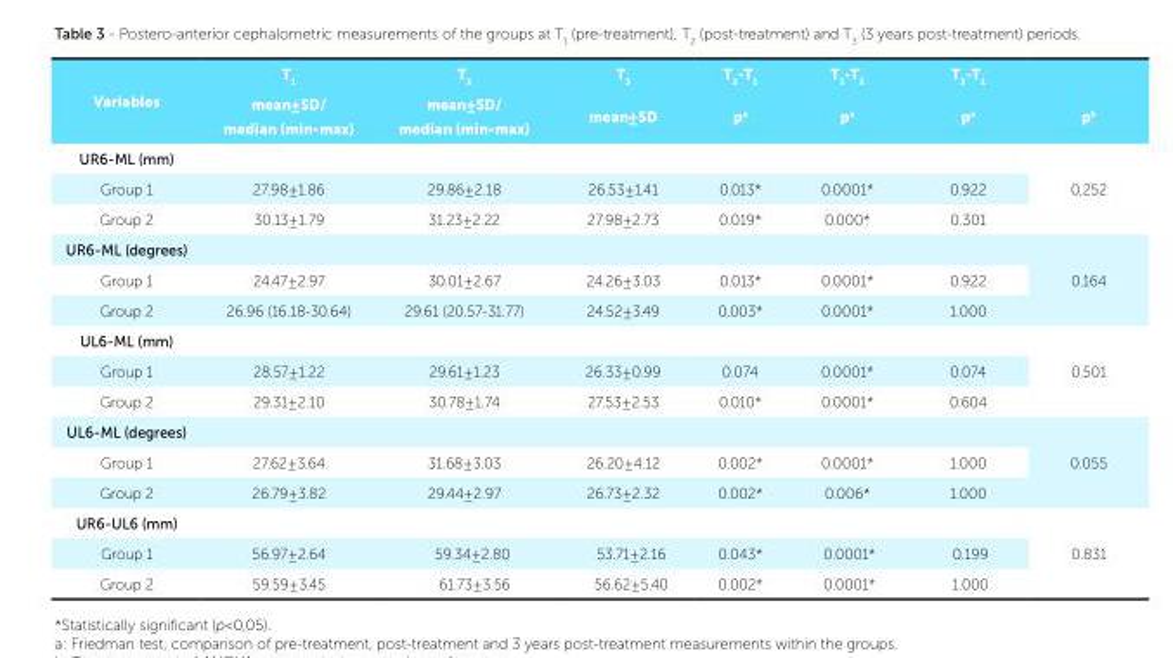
<table><tbody><tr><td rowspan="2">Variables</td><td>T<sub>1</sub></td><td>T<sub>2</sub></td><td>T<sub>3</sub></td><td>T<sub>2</sub>-T<sub>1</sub></td><td>T<sub>3</sub>-T<sub>2</sub></td><td>T<sub>3</sub>-T<sub>1</sub></td><td></td></tr><tr><td>mean±SD/ median (min-max)</td><td>mean±SD/ median (min-max)</td><td>mean±SD</td><td>p<sup>a</sup></td><td>p<sup>a</sup></td><td>p<sup>a</sup></td><td>p<sup>b</sup></td></tr><tr><td colspan="7">UR6-ML (mm)</td><td rowspan="3">0,252</td></tr><tr><td>Group 1</td><td>27.98±1.86</td><td>29.86±2.18</td><td>26.53±1.41</td><td>0.013*</td><td>0.0001*</td><td>0.922</td></tr><tr><td>Group 2</td><td>30.13±1.79</td><td>31.23±2.22</td><td>27.98±2.73</td><td>0.019*</td><td>0.000*</td><td>0.301</td></tr><tr><td colspan="7">UR6-ML (degrees)</td><td rowspan="3">0.164</td></tr><tr><td>Group 1</td><td>24.47±2.97</td><td>30.01±2.67</td><td>24.26±3.03</td><td>0.013*</td><td>0.0001*</td><td>0.922</td></tr><tr><td>Group 2</td><td>26.96 (16.18-30.64)</td><td>29.61 (20.57-31.77)</td><td>24.52±3.49</td><td>0.003*</td><td>0.0001*</td><td>1.000</td></tr><tr><td colspan="7">UL6-ML (mm)</td><td rowspan="3">0.501</td></tr><tr><td>Group 1</td><td>28.57±1.22</td><td>29.61±1.23</td><td>26.33±0.99</td><td>0.074</td><td>0.0001*</td><td>0.074</td></tr><tr><td>Group 2</td><td>29.31±2.10</td><td>30.78±1.74</td><td>27.53±2.53</td><td>0.010*</td><td>0.0001*</td><td>0.604</td></tr><tr><td colspan="7">UL6-ML (degrees)</td><td rowspan="3">0.055</td></tr><tr><td>Group 1</td><td>27.62±3.64</td><td>31.68±3.03</td><td>26.20±4.12</td><td>0.002*</td><td>0.0001*</td><td>1.000</td></tr><tr><td>Group 2</td><td>26.79±3.82</td><td>29.44±2.97</td><td>26.73±2.32</td><td>0.002*</td><td>0.006*</td><td>1.000</td></tr><tr><td colspan="7">UR6-UL6 (mm)</td><td rowspan="3">0.831</td></tr><tr><td>Group 1</td><td>56.97±2.64</td><td>59.34±2.80</td><td>53.71±2.16</td><td>0.043*</td><td>0.0001*</td><td>0.199</td></tr><tr><td>Group 2</td><td>59.59±3.45</td><td>61.73±3.56</td><td>56.62±5.40</td><td>0.002*</td><td>0.0001*</td><td>1.000</td></tr></tbody></table>